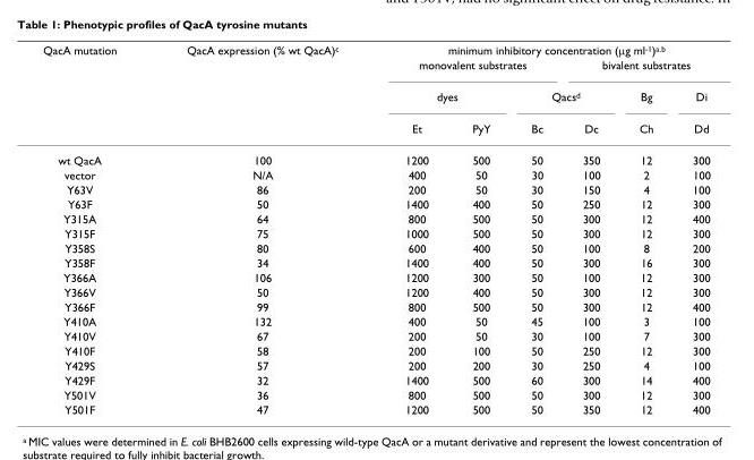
<table><thead><tr><td rowspan="4">QacA mutation</td><td rowspan="4">QacA expression (% wt QacA)<sup>c</sup></td><td colspan="6">minimum inhibitory concentration (μg ml<sup>-1</sup>)<sup>a.b</sup></td></tr><tr><td colspan="3">monovalent substrates</td><td colspan="3">bivalent substrates</td></tr><tr><td colspan="2">dyes</td><td colspan="2">Qacs<sup>d</sup></td><td rowspan="2">Bg Ch</td><td rowspan="2">Di Dd</td></tr><tr><td>Et</td><td>PyY</td><td>Bc</td><td>Dc</td></tr></thead><tbody><tr><td>wt QacA</td><td>100</td><td>1200</td><td>500</td><td>50</td><td>350</td><td>12</td><td>300</td></tr><tr><td>vector</td><td>N/A</td><td>400</td><td>50</td><td>30</td><td>100</td><td>2</td><td>100</td></tr><tr><td>Y63V</td><td>86</td><td>200</td><td>50</td><td>30</td><td>150</td><td>4</td><td>100</td></tr><tr><td>Y63F</td><td>50</td><td>1400</td><td>400</td><td>50</td><td>250</td><td>12</td><td>300</td></tr><tr><td>Y315A</td><td>64</td><td>800</td><td>500</td><td>50</td><td>300</td><td>12</td><td>400</td></tr><tr><td>Y315F</td><td>75</td><td>1000</td><td>500</td><td>50</td><td>300</td><td>12</td><td>300</td></tr><tr><td>Y358S</td><td>80</td><td>600</td><td>400</td><td>50</td><td>100</td><td>8</td><td>200</td></tr><tr><td>Y358F</td><td>34</td><td>1400</td><td>400</td><td>50</td><td>300</td><td>16</td><td>300</td></tr><tr><td>Y366A</td><td>106</td><td>1200</td><td>300</td><td>50</td><td>100</td><td>12</td><td>300</td></tr><tr><td>Y366V</td><td>50</td><td>1200</td><td>400</td><td>50</td><td>300</td><td>12</td><td>300</td></tr><tr><td>Y366F</td><td>99</td><td>800</td><td>500</td><td>50</td><td>300</td><td>12</td><td>400</td></tr><tr><td>Y410A</td><td>132</td><td>400</td><td>50</td><td>45</td><td>100</td><td>3</td><td>100</td></tr><tr><td>Y410V</td><td>67</td><td>200</td><td>50</td><td>30</td><td>100</td><td>7</td><td>300</td></tr><tr><td>Y410F</td><td>58</td><td>200</td><td>100</td><td>50</td><td>250</td><td>12</td><td>300</td></tr><tr><td>Y429S</td><td>57</td><td>200</td><td>200</td><td>30</td><td>250</td><td>4</td><td>100</td></tr><tr><td>Y429F</td><td>32</td><td>1400</td><td>500</td><td>60</td><td>300</td><td>14</td><td>400</td></tr><tr><td>Y501V</td><td>36</td><td>800</td><td>500</td><td>50</td><td>300</td><td>12</td><td>300</td></tr><tr><td>Y501F</td><td>47</td><td>1200</td><td>500</td><td>50</td><td>350</td><td>12</td><td>400</td></tr></tbody></table>